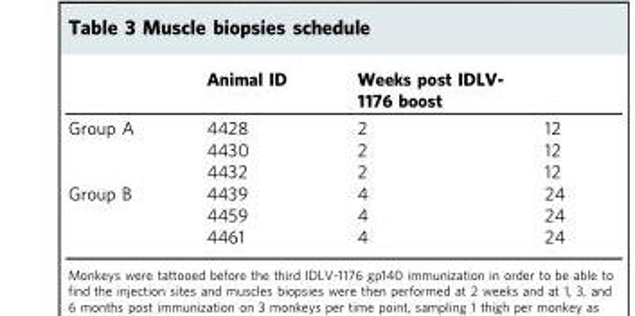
<table><thead><tr><td></td><td>Animal ID</td><td>Weeks post IDLV- 1176 boost</td><td></td></tr></thead><tbody><tr><td rowspan="3">Group A</td><td>4428</td><td>2</td><td>12</td></tr><tr><td>4430</td><td>2</td><td>12</td></tr><tr><td>4432</td><td>2</td><td>12</td></tr><tr><td rowspan="3">Group B</td><td>4439</td><td>4</td><td>24</td></tr><tr><td>4459</td><td>4</td><td>24</td></tr><tr><td>4461</td><td>4</td><td>24</td></tr></tbody></table>